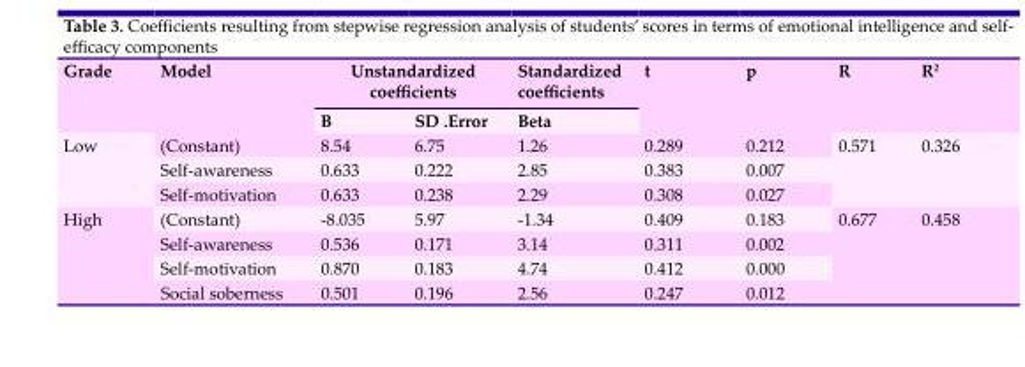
<table><thead><tr><td rowspan="2">Grade</td><td rowspan="2">Model</td><td colspan="2">Unstandardized coefficients</td><td rowspan="2">Standardized coefficients Beta</td><td rowspan="2">t</td><td rowspan="2">p</td><td rowspan="2">R</td><td rowspan="2">R<sup>2</sup></td></tr><tr><td>B</td><td>SD .Error</td></tr></thead><tbody><tr><td rowspan="3">Low</td><td>(Constant)</td><td>8.54</td><td>6.75</td><td>1.26</td><td>0.289</td><td>0.212</td><td rowspan="3">0.571</td><td rowspan="3">0.326</td></tr><tr><td>Self-awareness</td><td>0.633</td><td>0.222</td><td>2.85</td><td>0.383</td><td>0.007</td></tr><tr><td>Self-motivation</td><td>0.633</td><td>0.238</td><td>2.29</td><td>0.308</td><td>0.027</td></tr><tr><td rowspan="4">High</td><td>(Constant)</td><td>-8.035</td><td>5.97</td><td>-1.34</td><td>0.409</td><td>0.183</td><td rowspan="4">0.677</td><td rowspan="4">0.458</td></tr><tr><td>Self-awareness</td><td>0.536</td><td>0.171</td><td>3.14</td><td>0.311</td><td>0.002</td></tr><tr><td>Self-motivation</td><td>0.870</td><td>0.183</td><td>4.74</td><td>0.412</td><td>0.000</td></tr><tr><td>Social soberness</td><td>0.501</td><td>0.196</td><td>2.56</td><td>0.247</td><td>0.012</td></tr></tbody></table>